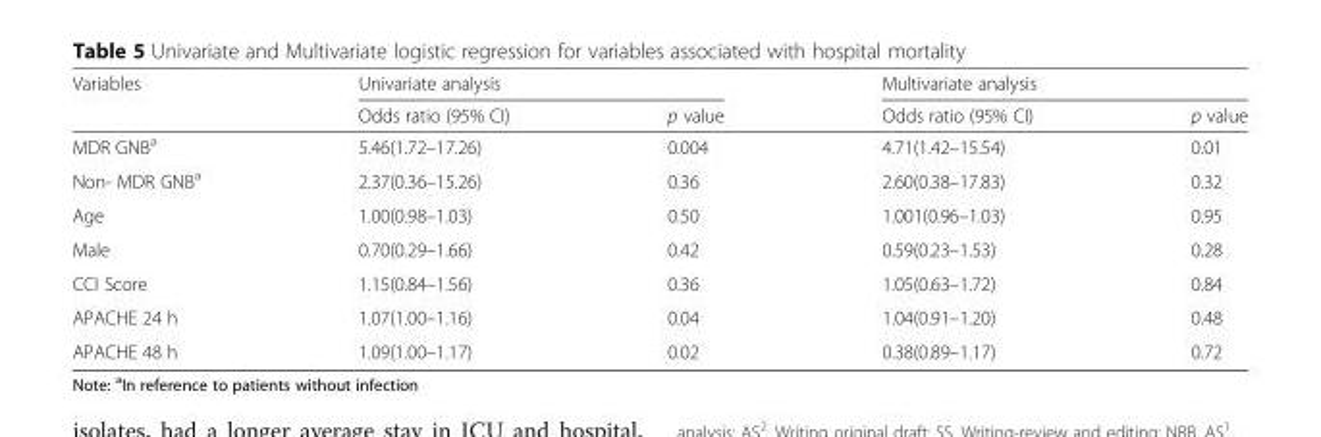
<table><thead><tr><td rowspan="2">Variables</td><td colspan="2">Univariate analysis</td><td colspan="2">Multivariate analysis</td></tr><tr><td>Odds ratio (95% CI)</td><td>p value</td><td>Odds ratio (95% CI)</td><td>p value</td></tr></thead><tbody><tr><td>MDR GNB<sup>a</sup></td><td>5.46(1.72–17.26)</td><td>0.004</td><td>4.71(1.42–15.54)</td><td>0.01</td></tr><tr><td>Non- MDR GNB<sup>a</sup></td><td>2.37(0.36–15.26)</td><td>0.36</td><td>2.60(0.38–17.83)</td><td>0.32</td></tr><tr><td>Age</td><td>1.00(0.98–1.03)</td><td>0.50</td><td>1.001(0.96–1.03)</td><td>0.95</td></tr><tr><td>Male</td><td>0.70(0.29–1.66)</td><td>0.42</td><td>0.59(0.23–1.53)</td><td>0.28</td></tr><tr><td>CCI Score</td><td>1.15(0.84–1.56)</td><td>0.36</td><td>1.05(0.63–1.72)</td><td>0.84</td></tr><tr><td>APACHE 24 h</td><td>1.07(1.00–1.16)</td><td>0.04</td><td>1.04(0.91–1.20)</td><td>0.48</td></tr><tr><td>APACHE 48 h</td><td>1.09(1.00–1.17)</td><td>0.02</td><td>0.38(0.89–1.17)</td><td>0.72</td></tr></tbody></table>